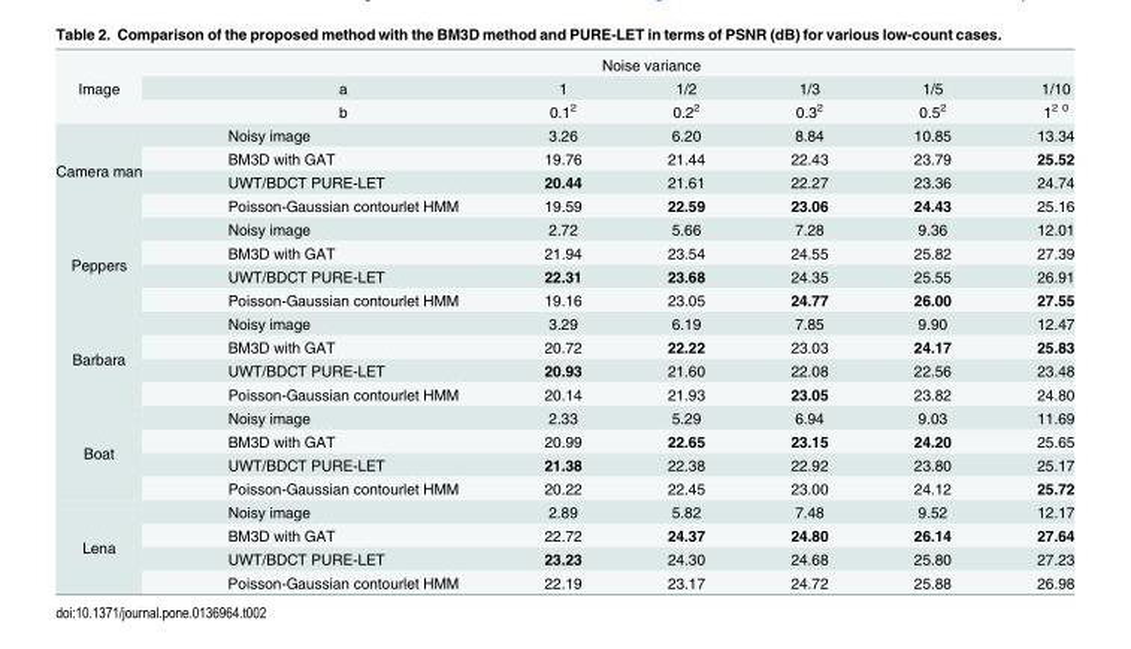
<table><tbody><tr><td rowspan="3">Image</td><td colspan="6">Noise variance</td></tr><tr><td>a</td><td>1</td><td>1/2</td><td>1/3</td><td>1/5</td><td>1/10</td></tr><tr><td>b</td><td>0.1<sup>2</sup></td><td>0.2<sup>2</sup></td><td>0.3<sup>2</sup></td><td>0.5<sup>2</sup></td><td>1<sup>2 0</sup></td></tr><tr><td rowspan="4">Camera man</td><td>Noisy image</td><td>3.26</td><td>6.20</td><td>8.84</td><td>10.85</td><td>13.34</td></tr><tr><td>BM3D with GAT</td><td>19.76</td><td>21.44</td><td>22.43</td><td>23.79</td><td>25.52</td></tr><tr><td>UWT/BDCT PURE-LET</td><td>20.44</td><td>21.61</td><td>22.27</td><td>23.36</td><td>24.74</td></tr><tr><td>Poisson-Gaussian contourlet HMM</td><td>19.59</td><td>22.59</td><td>23.06</td><td>24.43</td><td>25.16</td></tr><tr><td rowspan="4">Peppers</td><td>Noisy image</td><td>2.72</td><td>5.66</td><td>7.28</td><td>9.36</td><td>12.01</td></tr><tr><td>BM3D with GAT</td><td>21.94</td><td>23.54</td><td>24.55</td><td>25.82</td><td>27.39</td></tr><tr><td>UWT/BDCT PURE-LET</td><td>22.31</td><td>23.68</td><td>24.35</td><td>25.55</td><td>26.91</td></tr><tr><td>Poisson-Gaussian contourlet HMM</td><td>19.16</td><td>23.05</td><td>24.77</td><td>26.00</td><td>27.55</td></tr><tr><td rowspan="4">Barbara</td><td>Noisy image</td><td>3.29</td><td>6.19</td><td>7.85</td><td>9.90</td><td>12.47</td></tr><tr><td>BM3D with GAT</td><td>20.72</td><td>22.22</td><td>23.03</td><td>24.17</td><td>25.83</td></tr><tr><td>UWT/BDCT PURE-LET</td><td>20.93</td><td>21.60</td><td>22.08</td><td>22.56</td><td>23.48</td></tr><tr><td>Poisson-Gaussian contourlet HMM</td><td>20.14</td><td>21.93</td><td>23.05</td><td>23.82</td><td>24.80</td></tr><tr><td rowspan="4">Boat</td><td>Noisy image</td><td>2.33</td><td>5.29</td><td>6.94</td><td>9.03</td><td>11.69</td></tr><tr><td>BM3D with GAT</td><td>20.99</td><td>22.65</td><td>23.15</td><td>24.20</td><td>25.65</td></tr><tr><td>UWT/BDCT PURE-LET</td><td>21.38</td><td>22.38</td><td>22.92</td><td>23.80</td><td>25.17</td></tr><tr><td>Poisson-Gaussian contourlet HMM</td><td>20.22</td><td>22.45</td><td>23.00</td><td>24.12</td><td>25.72</td></tr><tr><td rowspan="4">Lena</td><td>Noisy image</td><td>2.89</td><td>5.82</td><td>7.48</td><td>9.52</td><td>12.17</td></tr><tr><td>BM3D with GAT</td><td>22.72</td><td>24.37</td><td>24.80</td><td>26.14</td><td>27.64</td></tr><tr><td>UWT/BDCT PURE-LET</td><td>23.23</td><td>24.30</td><td>24.68</td><td>25.80</td><td>27.23</td></tr><tr><td>Poisson-Gaussian contourlet HMM</td><td>22.19</td><td>23.17</td><td>24.72</td><td>25.88</td><td>26.98</td></tr></tbody></table>